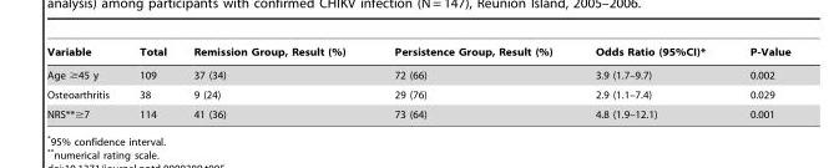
<table><thead><tr><td>Variable</td><td>Total</td><td>Remission Group, Result (%)</td><td>Persistence Group, Result (%)</td><td>Odds Ratio (95%CI)*</td><td>P-Value</td></tr></thead><tbody><tr><td>Age ≥45 y</td><td>109</td><td>37 (34)</td><td>72 (66)</td><td>3.9 (1.7–9.7)</td><td>0.002</td></tr><tr><td>Osteoarthritis</td><td>38</td><td>9 (24)</td><td>29 (76)</td><td>2.9 (1.1–7.4)</td><td>0.029</td></tr><tr><td>NRS**≥7</td><td>114</td><td>41 (36)</td><td>73 (64)</td><td>4.8 (1.9–12.1)</td><td>0.001</td></tr></tbody></table>